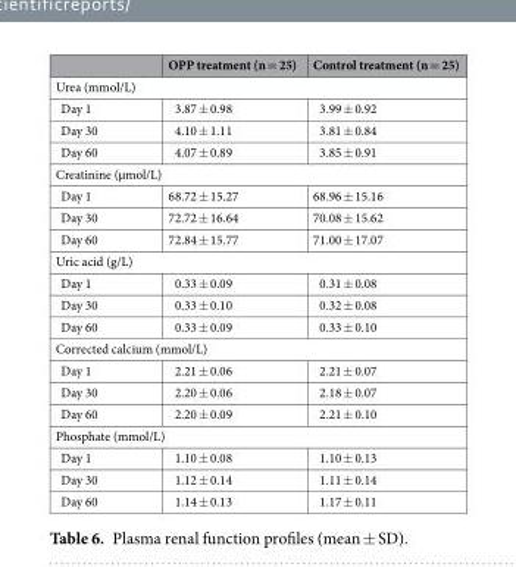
<table><thead><tr><td></td><td>OPP treatment (n = 25)</td><td>Control treatment (n = 25)</td></tr></thead><tbody><tr><td colspan="3">Urea (mmol/L)</td></tr><tr><td>Day 1</td><td>3.87 ± 0.98</td><td>3.99 ± 0.92</td></tr><tr><td>Day 30</td><td>4.10 ± 1.11</td><td>3.81 ± 0.84</td></tr><tr><td>Day 60</td><td>4.07 ± 0.89</td><td>3.85 ± 0.91</td></tr><tr><td colspan="3">Creatinine (µmol/L)</td></tr><tr><td>Day 1</td><td>68.72 ± 15.27</td><td>68.96 ± 15.16</td></tr><tr><td>Day 30</td><td>72.72 ± 16.64</td><td>70.08 ± 15.62</td></tr><tr><td>Day 60</td><td>72.84 ± 15.77</td><td>71.00 ± 17.07</td></tr><tr><td colspan="3">Uric acid (g/L)</td></tr><tr><td>Day 1</td><td>0.33 ± 0.09</td><td>0.31 ± 0.08</td></tr><tr><td>Day 30</td><td>0.33 ± 0.10</td><td>0.32 ± 0.08</td></tr><tr><td>Day 60</td><td>0.33 ± 0.09</td><td>0.33 ± 0.10</td></tr><tr><td colspan="3">Corrected calcium (mmol/L)</td></tr><tr><td>Day 1</td><td>2.21 ± 0.06</td><td>2.21 ± 0.07</td></tr><tr><td>Day 30</td><td>2.20 ± 0.06</td><td>2.18 ± 0.07</td></tr><tr><td>Day 60</td><td>2.20 ± 0.09</td><td>2.21 ± 0.10</td></tr><tr><td colspan="3">Phosphate (mmol/L)</td></tr><tr><td>Day 1</td><td>1.10 ± 0.08</td><td>1.10 ± 0.13</td></tr><tr><td>Day 30</td><td>1.12 ± 0.14</td><td>1.11 ± 0.14</td></tr><tr><td>Day 60</td><td>1.14 ± 0.13</td><td>1.17 ± 0.11</td></tr></tbody></table>